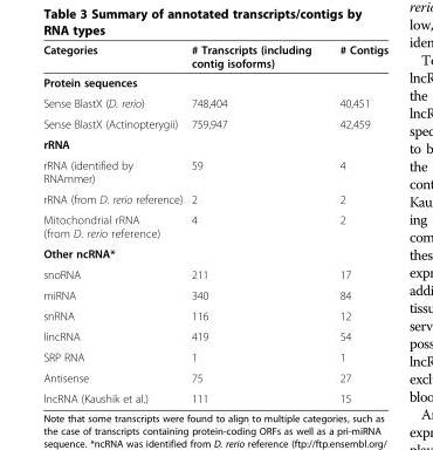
<table><thead><tr><td>Categories</td><td># Transcripts (including contig isoforms)</td><td># Contigs</td></tr></thead><tbody><tr><td colspan="3">Protein sequences</td></tr><tr><td>Sense BlastX (D. rerio)</td><td>748,404</td><td>40,451</td></tr><tr><td>Sense BlastX (Actinopterygii)</td><td>759,947</td><td>42,459</td></tr><tr><td colspan="3">rRNA</td></tr><tr><td>rRNA (identified by RNAmmer)</td><td>59</td><td>4</td></tr><tr><td>rRNA (from D. rerio reference)</td><td>2</td><td>2</td></tr><tr><td>Mitochondrial rRNA (from D. rerio reference)</td><td>4</td><td>2</td></tr><tr><td colspan="3">Other ncRNA*</td></tr><tr><td>snoRNA</td><td>211</td><td>17</td></tr><tr><td>miRNA</td><td>340</td><td>84</td></tr><tr><td>snRNA</td><td>116</td><td>12</td></tr><tr><td>lincRNA</td><td>419</td><td>54</td></tr><tr><td>SRP RNA</td><td>1</td><td>1</td></tr><tr><td>Antisense</td><td>75</td><td>27</td></tr><tr><td>lncRNA (Kaushik et al.)</td><td>111</td><td>15</td></tr></tbody></table>